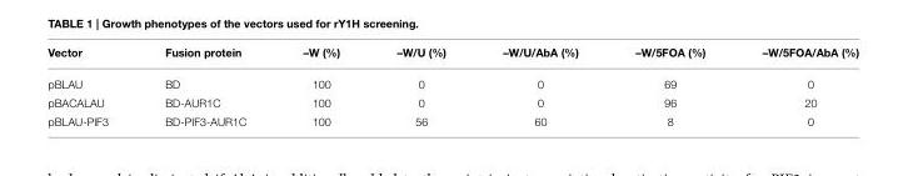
<table><thead><tr><td>Vector</td><td>Fusion protein</td><td>–W (%)</td><td>–W/U (%)</td><td>–W/U/AbA (%)</td><td>–W/5FOA (%)</td><td>–W/5FOA/AbA (%)</td></tr></thead><tbody><tr><td>pBLAU</td><td>BD</td><td>100</td><td>0</td><td>0</td><td>69</td><td>0</td></tr><tr><td>pBACALAU</td><td>BD-AUR1C</td><td>100</td><td>0</td><td>0</td><td>96</td><td>20</td></tr><tr><td>pBLAU-PIF3</td><td>BD-PIF3-AUR1C</td><td>100</td><td>56</td><td>60</td><td>8</td><td>0</td></tr></tbody></table>